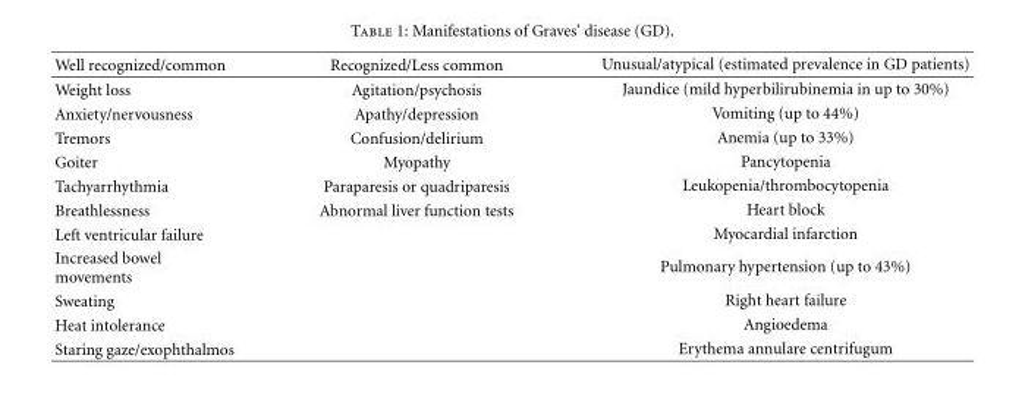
<table><thead><tr><td>Well recognized/common</td><td>Recognized/Less common</td><td>Unusual/atypical (estimated prevalence in GD patients)</td></tr></thead><tbody><tr><td>Weight loss</td><td>Agitation/psychosis</td><td>Jaundice (mild hyperbilirubinemia in up to 30%)</td></tr><tr><td>Anxiety/nervousness</td><td>Apathy/depression</td><td>Vomiting (up to 44%)</td></tr><tr><td>Tremors</td><td>Confusion/delirium</td><td>Anemia (up to 33%)</td></tr><tr><td>Goiter</td><td>Myopathy</td><td>Pancytopenia</td></tr><tr><td>Tachyarrhythmia</td><td>Paraparesis or quadriparesis</td><td>Leukopenia/thrombocytopenia</td></tr><tr><td>Breathlessness</td><td>Abnormal liver function tests</td><td>Heart block</td></tr><tr><td>Left ventricular failure</td><td></td><td>Myocardial infarction</td></tr><tr><td>Increased bowel movements</td><td></td><td>Pulmonary hypertension (up to 43%)</td></tr><tr><td>Sweating</td><td></td><td>Right heart failure</td></tr><tr><td>Heat intolerance</td><td></td><td>Angioedema</td></tr><tr><td>Staring gaze/exophthalmos</td><td></td><td>Erythema annulare centrifugum</td></tr></tbody></table>